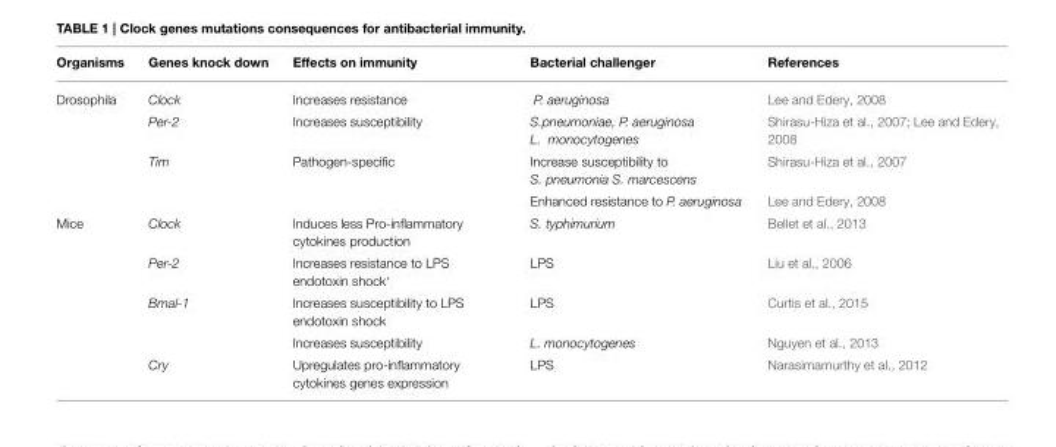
<table><thead><tr><td>Organisms</td><td>Genes knock down</td><td>Effects on immunity</td><td>Bacterial challenger</td><td>References</td></tr></thead><tbody><tr><td rowspan="4">Drosophila</td><td>Clock</td><td>Increases resistance</td><td>P. aeruginosa</td><td>Lee and Edery, 2008</td></tr><tr><td>Per-2</td><td>Increases susceptibility</td><td>S.pneumoniae, P. aeruginosa L. monocytogenes</td><td>Shirasu-Hiza et al., 2007; Lee and Edery, 2008</td></tr><tr><td>Tim</td><td>Pathogen-specific</td><td>Increase susceptibility to S. pneumonia S. marcescens</td><td>Shirasu-Hiza et al., 2007</td></tr><tr><td></td><td></td><td>Enhanced resistance to P. aeruginosa</td><td>Lee and Edery, 2008</td></tr><tr><td rowspan="5">Mice</td><td>Clock</td><td>Induces less Pro-inflammatory cytokines production</td><td>S. typhimurium</td><td>Bellet et al., 2013</td></tr><tr><td>Per-2</td><td>Increases resistance to LPS endotoxin shock‘</td><td>LPS</td><td>Liu et al., 2006</td></tr><tr><td>Bmal-1</td><td>Increases susceptibility to LPS endotoxin shock</td><td>LPS</td><td>Curtis et al., 2015</td></tr><tr><td></td><td>Increases susceptibility</td><td>L. monocytogenes</td><td>Nguyen et al., 2013</td></tr><tr><td>Cry</td><td>Upregulates pro-inflammatory cytokines genes expression</td><td>LPS</td><td>Narasimamurthy et al., 2012</td></tr></tbody></table>